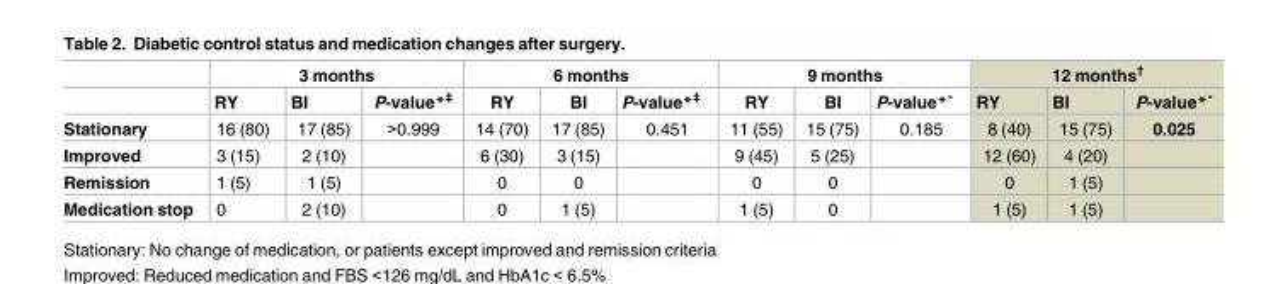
<table><thead><tr><td rowspan="2"></td><td colspan="3">3 months</td><td colspan="3">6 months</td><td colspan="3">9 months</td><td colspan="3">12 months<sup>†</sup></td></tr><tr><td>RY</td><td>BI</td><td>P-value*<sup>‡</sup></td><td>RY</td><td>BI</td><td>P-value*<sup>‡</sup></td><td>RY</td><td>BI</td><td>P-value*˚</td><td>RY</td><td>BI</td><td>P-value*˚</td></tr></thead><tbody><tr><td>Stationary</td><td>16 (80)</td><td>17 (85)</td><td>&gt;0.999</td><td>14 (70)</td><td>17 (85)</td><td>0.451</td><td>11 (55)</td><td>15 (75)</td><td>0.185</td><td>8 (40)</td><td>15 (75)</td><td>0.025</td></tr><tr><td>Improved</td><td>3 (15)</td><td>2 (10)</td><td></td><td>6 (30)</td><td>3 (15)</td><td></td><td>9 (45)</td><td>5 (25)</td><td></td><td>12 (60)</td><td>4 (20)</td><td></td></tr><tr><td>Remission</td><td>1 (5)</td><td>1 (5)</td><td></td><td>0</td><td>0</td><td></td><td>0</td><td>0</td><td></td><td>0</td><td>1 (5)</td><td></td></tr><tr><td>Medication stop</td><td>0</td><td>2 (10)</td><td></td><td>0</td><td>1 (5)</td><td></td><td>1 (5)</td><td>0</td><td></td><td>1 (5)</td><td>1 (5)</td><td></td></tr></tbody></table>